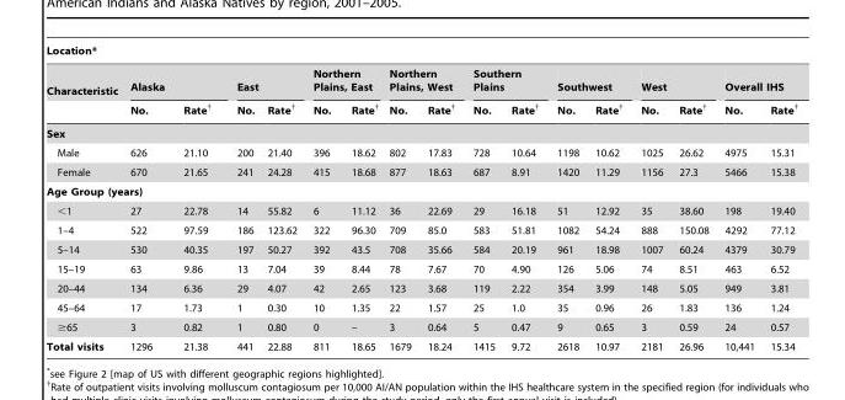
<table><thead><tr><td colspan="17">Location*</td></tr><tr><td rowspan="2">Characteristic</td><td colspan="2">Alaska</td><td colspan="2">East</td><td colspan="2">Northern Plains, East</td><td colspan="2">Northern Plains, West</td><td colspan="2">Southern Plains</td><td colspan="2">Southwest</td><td colspan="2">West</td><td colspan="2">Overall IHS</td></tr><tr><td>No.</td><td>Rate†</td><td>No.</td><td>Rate†</td><td>No.</td><td>Rate†</td><td>No.</td><td>Rate†</td><td>No.</td><td>Rate†</td><td>No.</td><td>Rate†</td><td>No.</td><td>Rate†</td><td>No.</td><td>Rate†</td></tr></thead><tbody><tr><td colspan="17">Sex</td></tr><tr><td>Male</td><td>626</td><td>21.10</td><td>200</td><td>21.40</td><td>396</td><td>18.62</td><td>802</td><td>17.83</td><td>728</td><td>10.64</td><td>1198</td><td>10.62</td><td>1025</td><td>26.62</td><td>4975</td><td>15.31</td></tr><tr><td>Female</td><td>670</td><td>21.65</td><td>241</td><td>24.28</td><td>415</td><td>18.68</td><td>877</td><td>18.63</td><td>687</td><td>8.91</td><td>1420</td><td>11.29</td><td>1156</td><td>27.3</td><td>5466</td><td>15.38</td></tr><tr><td colspan="17">Age Group (years)</td></tr><tr><td>&lt;1</td><td>27</td><td>22.78</td><td>14</td><td>55.82</td><td>6</td><td>11.12</td><td>36</td><td>22.69</td><td>29</td><td>16.18</td><td>51</td><td>12.92</td><td>35</td><td>38.60</td><td>198</td><td>19.40</td></tr><tr><td>1–4</td><td>522</td><td>97.59</td><td>186</td><td>123.62</td><td>322</td><td>96.30</td><td>709</td><td>85.0</td><td>583</td><td>51.81</td><td>1082</td><td>54.24</td><td>888</td><td>150.08</td><td>4292</td><td>77.12</td></tr><tr><td>5–14</td><td>530</td><td>40.35</td><td>197</td><td>50.27</td><td>392</td><td>43.5</td><td>708</td><td>35.66</td><td>584</td><td>20.19</td><td>961</td><td>18.98</td><td>1007</td><td>60.24</td><td>4379</td><td>30.79</td></tr><tr><td>15–19</td><td>63</td><td>9.86</td><td>13</td><td>7.04</td><td>39</td><td>8.44</td><td>78</td><td>7.67</td><td>70</td><td>4.90</td><td>126</td><td>5.06</td><td>74</td><td>8.51</td><td>463</td><td>6.52</td></tr><tr><td>20–44</td><td>134</td><td>6.36</td><td>29</td><td>4.07</td><td>42</td><td>2.65</td><td>123</td><td>3.68</td><td>119</td><td>2.22</td><td>354</td><td>3.99</td><td>148</td><td>5.05</td><td>949</td><td>3.81</td></tr><tr><td>45–64</td><td>17</td><td>1.73</td><td>1</td><td>0.30</td><td>10</td><td>1.35</td><td>22</td><td>1.57</td><td>25</td><td>1.0</td><td>35</td><td>0.96</td><td>26</td><td>1.83</td><td>136</td><td>1.24</td></tr><tr><td>≥65</td><td>3</td><td>0.82</td><td>1</td><td>0.80</td><td>0</td><td>–</td><td>3</td><td>0.64</td><td>5</td><td>0.47</td><td>9</td><td>0.65</td><td>3</td><td>0.59</td><td>24</td><td>0.57</td></tr><tr><td>Total visits</td><td>1296</td><td>21.38</td><td>441</td><td>22.88</td><td>811</td><td>18.65</td><td>1679</td><td>18.24</td><td>1415</td><td>9.72</td><td>2618</td><td>10.97</td><td>2181</td><td>26.96</td><td>10,441</td><td>15.34</td></tr></tbody></table>